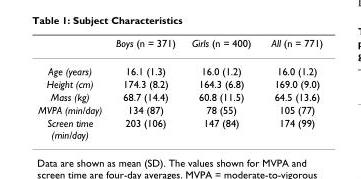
<table><thead><tr><td></td><td>Boys (n = 371)</td><td>Girls (n = 400)</td><td>All (n = 771)</td></tr></thead><tbody><tr><td>Age (years)</td><td>16.1 (1.3)</td><td>16.0 (1.2)</td><td>16.0 (1.2)</td></tr><tr><td>Height (cm)</td><td>174.3 (8.2)</td><td>164.3 (6.8)</td><td>169.0 (9.0)</td></tr><tr><td>Mass (kg)</td><td>68.7 (14.4)</td><td>60.8 (11.5)</td><td>64.5 (13.6)</td></tr><tr><td>MVPA (min/day)</td><td>134 (87)</td><td>78 (55)</td><td>105 (77)</td></tr><tr><td>Screen time (min/day)</td><td>203 (106)</td><td>147 (84)</td><td>174 (99)</td></tr></tbody></table>